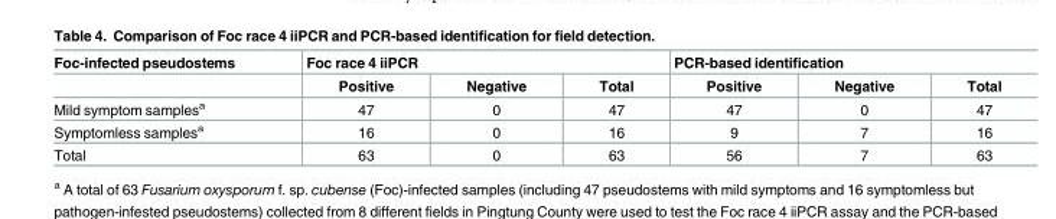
<table><thead><tr><td rowspan="2">Foc-infected pseudostems</td><td colspan="3">Foc race 4 iiPCR</td><td colspan="3">PCR-based identification</td></tr><tr><td>Positive</td><td>Negative</td><td>Total</td><td>Positive</td><td>Negative</td><td>Total</td></tr></thead><tbody><tr><td>Mild symptom samples<sup>a</sup></td><td>47</td><td>0</td><td>47</td><td>47</td><td>0</td><td>47</td></tr><tr><td>Symptomless samples<sup>a</sup></td><td>16</td><td>0</td><td>16</td><td>9</td><td>7</td><td>16</td></tr><tr><td>Total</td><td>63</td><td>0</td><td>63</td><td>56</td><td>7</td><td>63</td></tr></tbody></table>